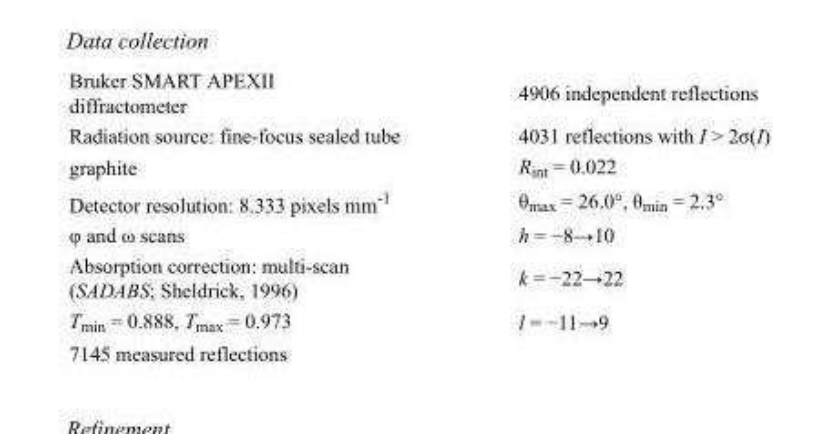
<table><tbody><tr><td>Bruker SMART APEXII diffractometer</td><td>4906 independent reflections</td></tr><tr><td>Radiation source: fine-focus sealed tube</td><td>4031 reflections with I &gt; 2σ(I)</td></tr><tr><td>graphite</td><td>R<sub>int</sub> = 0.022</td></tr><tr><td>Detector resolution: 8.333 pixels mm<sup>-1</sup></td><td>θ<sub>max</sub> = 26.0°, θ<sub>min</sub> = 2.3°</td></tr><tr><td>φ and ω scans</td><td>h = −8→10</td></tr><tr><td>Absorption correction: multi-scan (SADABS; Sheldrick, 1996)</td><td>k = −22→22</td></tr><tr><td>T<sub>min</sub> = 0.888, T<sub>max</sub> = 0.973</td><td>l = −11→9</td></tr><tr><td>7145 measured reflections</td><td></td></tr></tbody></table>